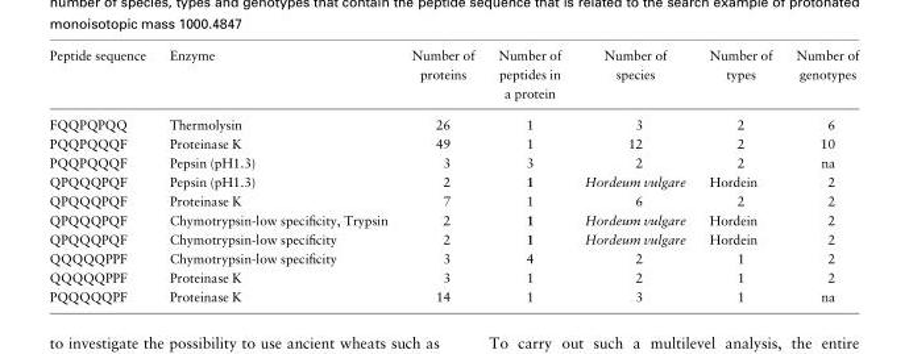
<table><thead><tr><td>Peptide sequence</td><td>Enzyme</td><td>Number of proteins</td><td>Number of peptides in a protein</td><td>Number of species</td><td>Number of types</td><td>Number of genotypes</td></tr></thead><tbody><tr><td>FQQPQPQQ</td><td>Thermolysin</td><td>26</td><td>1</td><td>3</td><td>2</td><td>6</td></tr><tr><td>PQQPQQQF</td><td>Proteinase K</td><td>49</td><td>1</td><td>12</td><td>2</td><td>10</td></tr><tr><td>PQQPQQQF</td><td>Pepsin (pH1.3)</td><td>3</td><td>3</td><td>2</td><td>2</td><td>na</td></tr><tr><td>QPQQQPQF</td><td>Pepsin (pH1.3)</td><td>2</td><td>1</td><td>Hordeum vulgare</td><td>Hordein</td><td>2</td></tr><tr><td>QPQQQPQF</td><td>Proteinase K</td><td>7</td><td>1</td><td>6</td><td>2</td><td>2</td></tr><tr><td>QPQQQPQF</td><td>Chymotrypsin-low specificity, Trypsin</td><td>2</td><td>1</td><td>Hordeum vulgare</td><td>Hordein</td><td>2</td></tr><tr><td>QPQQQPQF</td><td>Chymotrypsin-low specificity</td><td>2</td><td>1</td><td>Hordeum vulgare</td><td>Hordein</td><td>2</td></tr><tr><td>QQQQQPPF</td><td>Chymotrypsin-low specificity</td><td>3</td><td>4</td><td>2</td><td>1</td><td>2</td></tr><tr><td>QQQQQPPF</td><td>Proteinase K</td><td>3</td><td>1</td><td>2</td><td>1</td><td>2</td></tr><tr><td>PQQQQQPF</td><td>Proteinase K</td><td>14</td><td>1</td><td>3</td><td>1</td><td>na</td></tr></tbody></table>